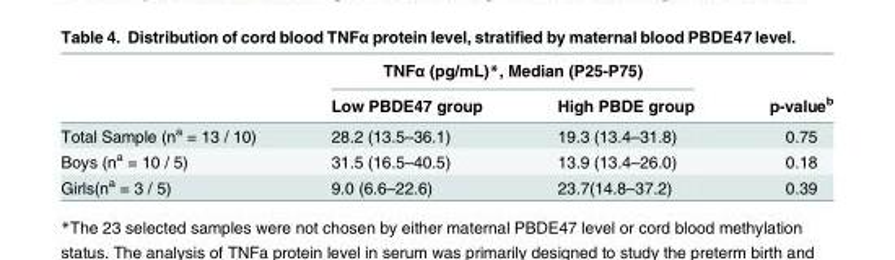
<table><thead><tr><td rowspan="2"></td><td colspan="2">TNFα (pg/mL)*, Median (P25-P75)</td><td rowspan="2">p-value<sup>b</sup></td></tr><tr><td>Low PBDE47 group</td><td>High PBDE group</td></tr></thead><tbody><tr><td>Total Sample (n<sup>a</sup> = 13 / 10)</td><td>28.2 (13.5–36.1)</td><td>19.3 (13.4–31.8)</td><td>0.75</td></tr><tr><td>Boys (n<sup>a</sup> = 10 / 5)</td><td>31.5 (16.5–40.5)</td><td>13.9 (13.4–26.0)</td><td>0.18</td></tr><tr><td>Girls(n<sup>a</sup> = 3 / 5)</td><td>9.0 (6.6–22.6)</td><td>23.7(14.8–37.2)</td><td>0.39</td></tr></tbody></table>